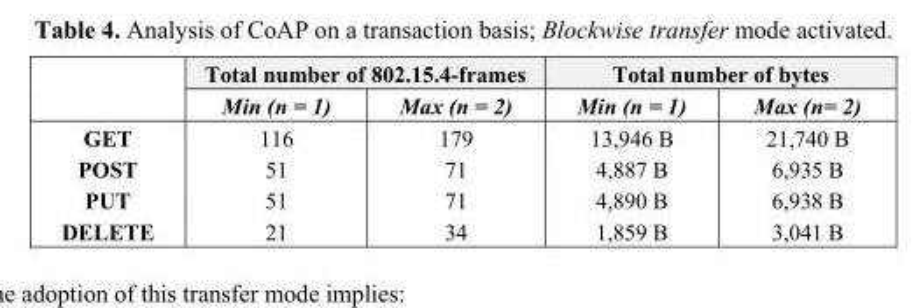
<table><thead><tr><td rowspan="2"></td><td colspan="2">Total number of 802.15.4-frames</td><td colspan="2">Total number of bytes</td></tr><tr><td>Min (n = 1)</td><td>Max (n = 2)</td><td>Min (n = 1)</td><td>Max (n= 2)</td></tr></thead><tbody><tr><td>GET</td><td>116</td><td>179</td><td>13,946 B</td><td>21,740 B</td></tr><tr><td>POST</td><td>51</td><td>71</td><td>4,887 B</td><td>6,935 B</td></tr><tr><td>PUT</td><td>51</td><td>71</td><td>4,890 B</td><td>6,938 B</td></tr><tr><td>DELETE</td><td>21</td><td>34</td><td>1,859 B</td><td>3,041 B</td></tr></tbody></table>